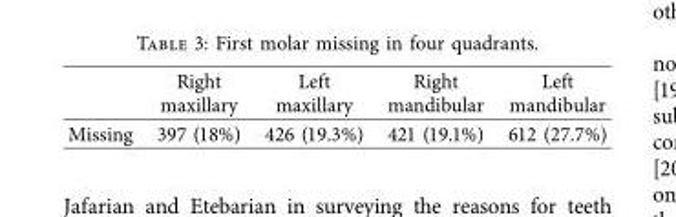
<table><thead><tr><td></td><td>Right maxillary</td><td>Left maxillary</td><td>Right mandibular</td><td>Left mandibular</td></tr></thead><tbody><tr><td>Missing</td><td>397 (18%)</td><td>426 (19.3%)</td><td>421 (19.1%)</td><td>612 (27.7%)</td></tr></tbody></table>